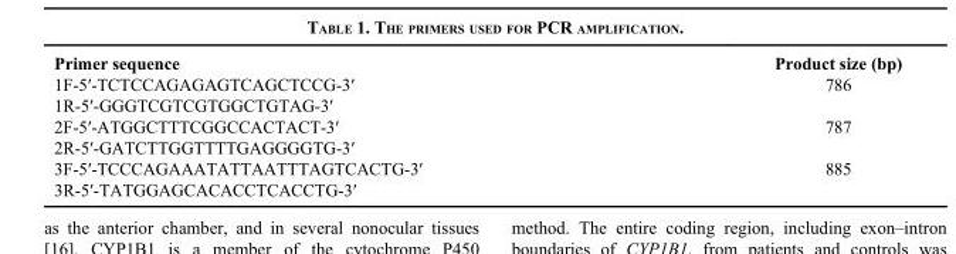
<table><thead><tr><td>Primer sequence</td><td>Product size (bp)</td></tr></thead><tbody><tr><td>1F-5′-TCTCCAGAGAGTCAGCTCCG-3′</td><td>786</td></tr><tr><td colspan="2">1R-5′-GGGTCGTCGTGGCTGTAG-3′</td></tr><tr><td>2F-5′-ATGGCTTTCGGCCACTACT-3′</td><td>787</td></tr><tr><td colspan="2">2R-5′-GATCTTGGTTTTGAGGGGTG-3′</td></tr><tr><td>3F-5′-TCCCAGAAATATTAATTTAGTCACTG-3′</td><td>885</td></tr><tr><td>3R-5′-TATGGAGCACACCTCACCTG-3′</td><td></td></tr></tbody></table>